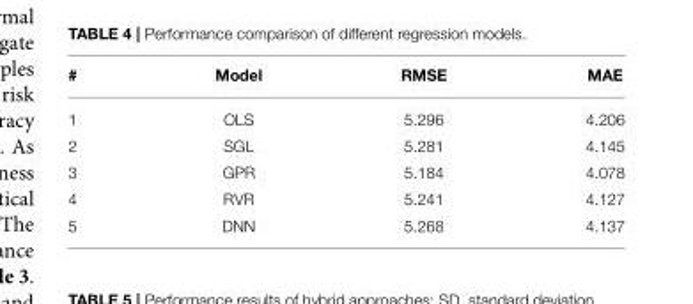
<table><thead><tr><td>#</td><td>Model</td><td>RMSE</td><td>MAE</td></tr></thead><tbody><tr><td>1</td><td>OLS</td><td>5.296</td><td>4.206</td></tr><tr><td>2</td><td>SGL</td><td>5.281</td><td>4.145</td></tr><tr><td>3</td><td>GPR</td><td>5.184</td><td>4.078</td></tr><tr><td>4</td><td>RVR</td><td>5.241</td><td>4.127</td></tr><tr><td>5</td><td>DNN</td><td>5.268</td><td>4.137</td></tr></tbody></table>